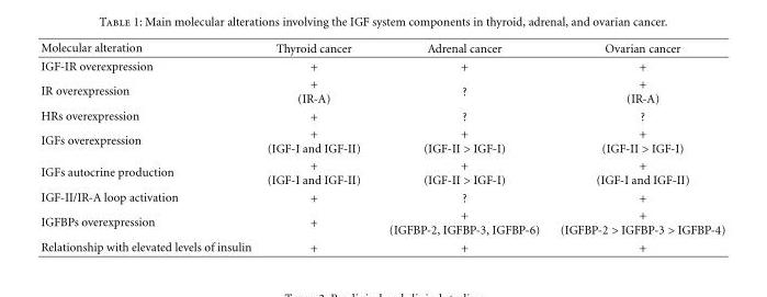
<table><thead><tr><td>Molecular alteration</td><td>Thyroid cancer</td><td>Adrenal cancer</td><td>Ovarian cancer</td></tr></thead><tbody><tr><td>IGF-IR overexpression</td><td>+</td><td>+</td><td>+</td></tr><tr><td>IR overexpression</td><td>+ (IR-A)</td><td>?</td><td>+ (IR-A)</td></tr><tr><td>HRs overexpression</td><td>+</td><td>?</td><td>?</td></tr><tr><td>IGFs overexpression</td><td>+ (IGF-I and IGF-II)</td><td>+ (IGF-II &gt; IGF-I)</td><td>+ (IGF-II &gt; IGF-I)</td></tr><tr><td>IGFs autocrine production</td><td>+ (IGF-I and IGF-II)</td><td>+ (IGF-II &gt; IGF-I)</td><td>+ (IGF-I and IGF-II)</td></tr><tr><td>IGF-II/IR-A loop activation</td><td>+</td><td>?</td><td>+</td></tr><tr><td>IGFBPs overexpression</td><td>+</td><td>+ (IGFBP-2, IGFBP-3, IGFBP-6)</td><td>+ (IGFBP-2 &gt; IGFBP-3 &gt; IGFBP-4)</td></tr><tr><td>Relationship with elevated levels of insulin</td><td>+</td><td>+</td><td>+</td></tr></tbody></table>